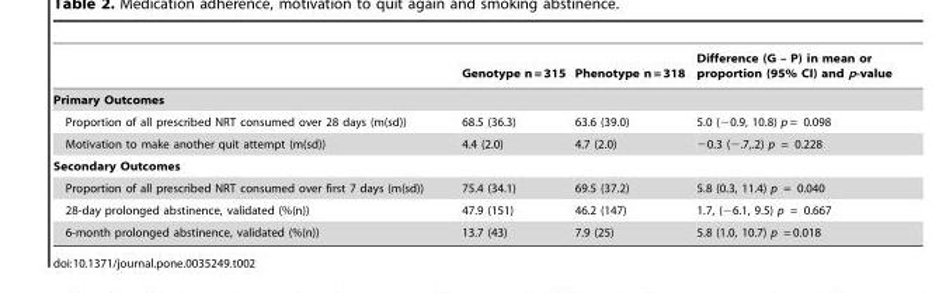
<table><thead><tr><td></td><td>Genotype n = 315</td><td>Phenotype n = 318</td><td>Difference (G – P) in mean or proportion (95% CI) and p-value</td></tr></thead><tbody><tr><td colspan="4">Primary Outcomes</td></tr><tr><td>Proportion of all prescribed NRT consumed over 28 days (m(sd))</td><td>68.5 (36.3)</td><td>63.6 (39.0)</td><td>5.0 (−0.9, 10.8) p = 0.098</td></tr><tr><td>Motivation to make another quit attempt (m(sd))</td><td>4.4 (2.0)</td><td>4.7 (2.0)</td><td>−0.3 (−.7,.2) p = 0.228</td></tr><tr><td colspan="4">Secondary Outcomes</td></tr><tr><td>Proportion of all prescribed NRT consumed over first 7 days (m(sd))</td><td>75.4 (34.1)</td><td>69.5 (37.2)</td><td>5.8 (0.3, 11.4) p = 0.040</td></tr><tr><td>28-day prolonged abstinence, validated (%(n))</td><td>47.9 (151)</td><td>46.2 (147)</td><td>1.7, (−6.1, 9.5) p = 0.667</td></tr><tr><td>6-month prolonged abstinence, validated (%(n))</td><td>13.7 (43)</td><td>7.9 (25)</td><td>5.8 (1.0, 10.7) p = 0.018</td></tr></tbody></table>